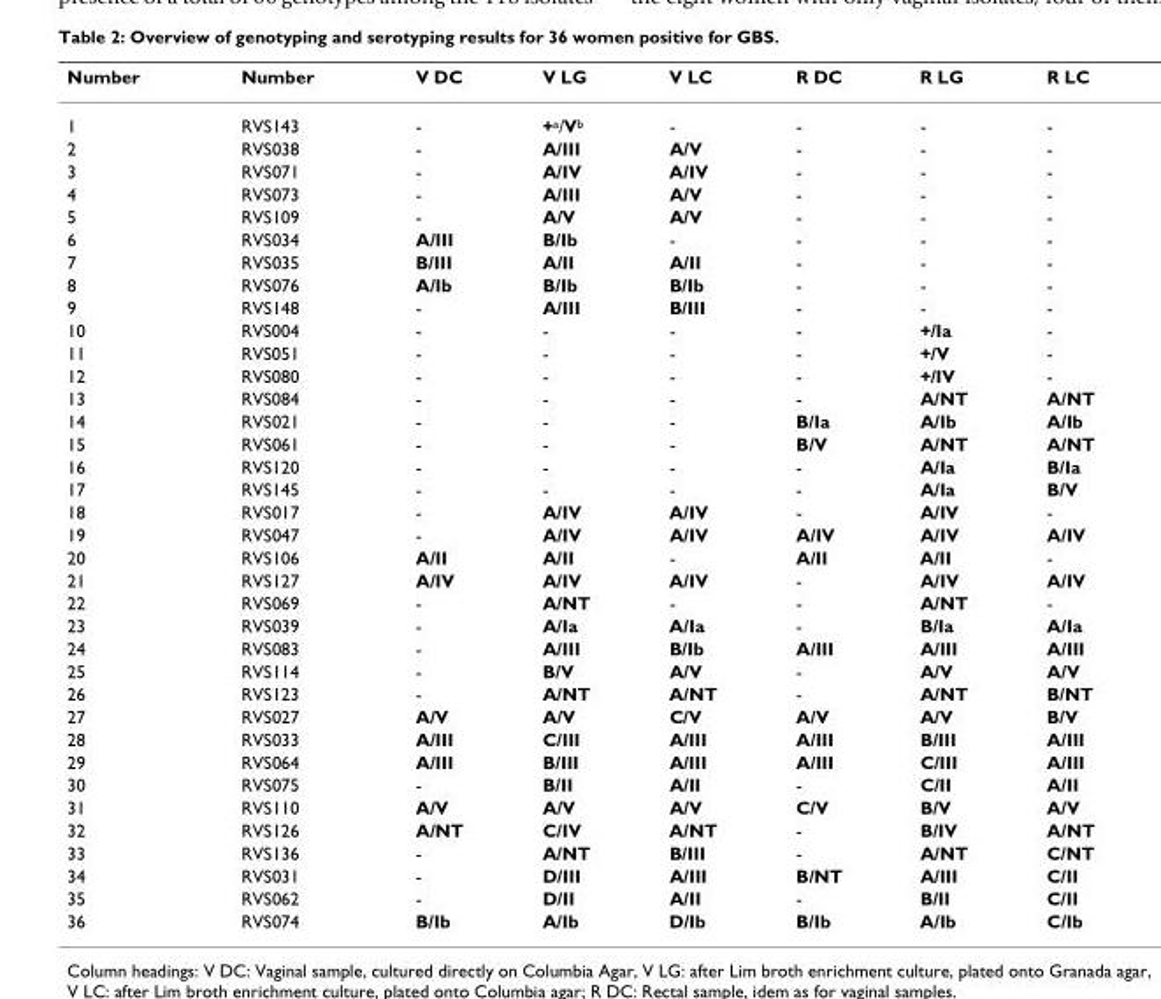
<table><thead><tr><td>Number</td><td>Number</td><td>V DC</td><td>V LG</td><td>V LC</td><td>R DC</td><td>R LG</td><td>R LC</td></tr></thead><tbody><tr><td>1</td><td>RVS143</td><td>-</td><td>+<sup>a</sup>/V<sup>b</sup></td><td>-</td><td>-</td><td>-</td><td>-</td></tr><tr><td>2</td><td>RVS038</td><td>-</td><td>A/III</td><td>A/V</td><td>-</td><td>-</td><td>-</td></tr><tr><td>3</td><td>RVS071</td><td>-</td><td>A/IV</td><td>A/IV</td><td>-</td><td>-</td><td>-</td></tr><tr><td>4</td><td>RVS073</td><td>-</td><td>A/III</td><td>A/V</td><td>-</td><td>-</td><td>-</td></tr><tr><td>5</td><td>RVS109</td><td>-</td><td>A/V</td><td>A/V</td><td>-</td><td>-</td><td>-</td></tr><tr><td>6</td><td>RVS034</td><td>A/III</td><td>B/Ib</td><td>-</td><td>-</td><td>-</td><td>-</td></tr><tr><td>7</td><td>RVS035</td><td>B/III</td><td>A/II</td><td>A/II</td><td>-</td><td>-</td><td>-</td></tr><tr><td>8</td><td>RVS076</td><td>A/Ib</td><td>B/Ib</td><td>B/Ib</td><td>-</td><td>-</td><td>-</td></tr><tr><td>9</td><td>RVS148</td><td>-</td><td>A/III</td><td>B/III</td><td>-</td><td>-</td><td>-</td></tr><tr><td>10</td><td>RVS004</td><td>-</td><td>-</td><td>-</td><td>-</td><td>+/Ia</td><td>-</td></tr><tr><td>11</td><td>RVS051</td><td>-</td><td>-</td><td>-</td><td>-</td><td>+/V</td><td>-</td></tr><tr><td>12</td><td>RVS080</td><td>-</td><td>-</td><td>-</td><td>-</td><td>+/IV</td><td>-</td></tr><tr><td>13</td><td>RVS084</td><td>-</td><td>-</td><td>-</td><td>-</td><td>A/NT</td><td>A/NT</td></tr><tr><td>14</td><td>RVS021</td><td>-</td><td>-</td><td>-</td><td>B/Ia</td><td>A/Ib</td><td>A/Ib</td></tr><tr><td>15</td><td>RVS061</td><td>-</td><td>-</td><td>-</td><td>B/V</td><td>A/NT</td><td>A/NT</td></tr><tr><td>16</td><td>RVS120</td><td>-</td><td>-</td><td>-</td><td>-</td><td>A/Ia</td><td>B/Ia</td></tr><tr><td>17</td><td>RVS145</td><td>-</td><td>-</td><td>-</td><td>-</td><td>A/Ia</td><td>B/V</td></tr><tr><td>18</td><td>RVS017</td><td>-</td><td>A/IV</td><td>A/IV</td><td>-</td><td>A/IV</td><td>-</td></tr><tr><td>19</td><td>RVS047</td><td>-</td><td>A/IV</td><td>A/IV</td><td>A/IV</td><td>A/IV</td><td>A/IV</td></tr><tr><td>20</td><td>RVS106</td><td>A/II</td><td>A/II</td><td>-</td><td>A/II</td><td>A/II</td><td>-</td></tr><tr><td>21</td><td>RVS127</td><td>A/IV</td><td>A/IV</td><td>A/IV</td><td>-</td><td>A/IV</td><td>A/IV</td></tr><tr><td>22</td><td>RVS069</td><td>-</td><td>A/NT</td><td>-</td><td>-</td><td>A/NT</td><td>-</td></tr><tr><td>23</td><td>RVS039</td><td>-</td><td>A/Ia</td><td>A/Ia</td><td>-</td><td>B/Ia</td><td>A/Ia</td></tr><tr><td>24</td><td>RVS083</td><td>-</td><td>A/III</td><td>B/Ib</td><td>A/III</td><td>A/III</td><td>A/III</td></tr><tr><td>25</td><td>RVS114</td><td>-</td><td>B/V</td><td>A/V</td><td>-</td><td>A/V</td><td>A/V</td></tr><tr><td>26</td><td>RVS123</td><td>-</td><td>A/NT</td><td>A/NT</td><td>-</td><td>A/NT</td><td>B/NT</td></tr><tr><td>27</td><td>RVS027</td><td>A/V</td><td>A/V</td><td>C/V</td><td>A/V</td><td>A/V</td><td>B/V</td></tr><tr><td>28</td><td>RVS033</td><td>A/III</td><td>C/III</td><td>A/III</td><td>A/III</td><td>B/III</td><td>A/III</td></tr><tr><td>29</td><td>RVS064</td><td>A/III</td><td>B/III</td><td>A/III</td><td>A/III</td><td>C/III</td><td>A/III</td></tr><tr><td>30</td><td>RVS075</td><td>-</td><td>B/II</td><td>A/II</td><td>-</td><td>C/II</td><td>A/II</td></tr><tr><td>31</td><td>RVS110</td><td>A/V</td><td>A/V</td><td>A/V</td><td>C/V</td><td>B/V</td><td>A/V</td></tr><tr><td>32</td><td>RVS126</td><td>A/NT</td><td>C/IV</td><td>A/NT</td><td>-</td><td>B/IV</td><td>A/NT</td></tr><tr><td>33</td><td>RVS136</td><td>-</td><td>A/NT</td><td>B/III</td><td>-</td><td>A/NT</td><td>C/NT</td></tr><tr><td>34</td><td>RVS031</td><td>-</td><td>D/III</td><td>A/III</td><td>B/NT</td><td>A/III</td><td>C/II</td></tr><tr><td>35</td><td>RVS062</td><td>-</td><td>D/II</td><td>A/II</td><td>-</td><td>B/II</td><td>C/II</td></tr><tr><td>36</td><td>RVS074</td><td>B/Ib</td><td>A/Ib</td><td>D/Ib</td><td>B/Ib</td><td>A/Ib</td><td>C/Ib</td></tr></tbody></table>